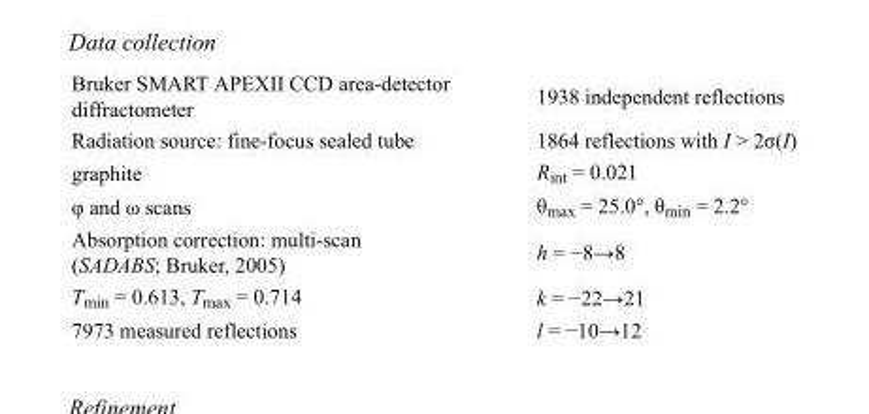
<table><tbody><tr><td>Bruker SMART APEXII CCD area-detector diffractometer</td><td>1938 independent reflections</td></tr><tr><td>Radiation source: fine-focus sealed tube</td><td>1864 reflections with I &gt; 2σ(I)</td></tr><tr><td>graphite</td><td>R<sub>int</sub> = 0.021</td></tr><tr><td>φ and ω scans</td><td>θ<sub>max</sub> = 25.0°, θ<sub>min</sub> = 2.2°</td></tr><tr><td>Absorption correction: multi-scan (SADABS; Bruker, 2005)</td><td>h = −8→8</td></tr><tr><td>T<sub>min</sub> = 0.613, T<sub>max</sub> = 0.714</td><td>k = −22→21</td></tr><tr><td>7973 measured reflections</td><td>l = −10→12</td></tr></tbody></table>